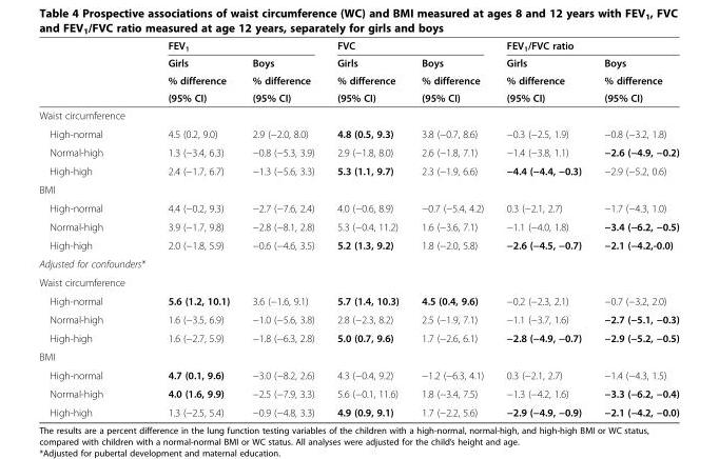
<table><thead><tr><td rowspan="4"></td><td colspan="2">FEV<sub>1</sub></td><td colspan="2">FVC</td><td colspan="2">FEV<sub>1</sub>/FVC ratio</td></tr><tr><td rowspan="3">Girls % difference (95% CI)</td><td rowspan="3">Boys % difference (95% CI)</td><td rowspan="3">Girls % difference (95% CI)</td><td rowspan="3">Boys % difference (95% CI)</td><td rowspan="3">Girls % difference (95% CI)</td><td rowspan="3">Boys % difference (95% CI)</td></tr><tr></tr><tr></tr></thead><tbody><tr><td colspan="7">Waist circumference</td></tr><tr><td>High-normal</td><td>4.5 (0.2, 9.0)</td><td>2.9 (−2.0, 8.0)</td><td>4.8 (0.5, 9.3)</td><td>3.8 (−0.7, 8.6)</td><td>−0.3 (−2.5, 1.9)</td><td>−0.8 (−3.2, 1.8)</td></tr><tr><td>Normal-high</td><td>1.3 (−3.4, 6.3)</td><td>−0.8 (−5.3, 3.9)</td><td>2.9 (−1.8, 8.0)</td><td>2.6 (−1.8, 7.1)</td><td>−1.4 (−3.8, 1.1)</td><td>−2.6 (−4.9, −0.2)</td></tr><tr><td>High-high</td><td>2.4 (−1.7, 6.7)</td><td>−1.3 (−5.6, 3.3)</td><td>5.3 (1.1, 9.7)</td><td>2.3 (−1.9, 6.6)</td><td>−4.4 (−4.4, −0.3)</td><td>−2.9 (−5.2, 0.6)</td></tr><tr><td colspan="7">BMI</td></tr><tr><td>High-normal</td><td>4.4 (−0.2, 9.3)</td><td>−2.7 (−7.6, 2.4)</td><td>4.0 (−0.6, 8.9)</td><td>−0.7 (−5.4, 4.2)</td><td>0.3 (−2.1, 2.7)</td><td>−1.7 (−4.3, 1.0)</td></tr><tr><td>Normal-high</td><td>3.9 (−1.7, 9.8)</td><td>−2.8 (−8.1, 2.8)</td><td>5.3 (−0.4, 11.2)</td><td>1.6 (−3.6, 7.1)</td><td>−1.1 (−4.0, 1.8)</td><td>−3.4 (−6.2, −0.5)</td></tr><tr><td>High-high</td><td>2.0 (−1.8, 5.9)</td><td>−0.6 (−4.6, 3.5)</td><td>5.2 (1.3, 9.2)</td><td>1.8 (−2.0, 5.8)</td><td>−2.6 (−4.5, −0.7)</td><td>−2.1 (−4.2,-0.0)</td></tr><tr><td colspan="7">Adjusted for confounders*</td></tr><tr><td colspan="7">Waist circumference</td></tr><tr><td>High-normal</td><td>5.6 (1.2, 10.1)</td><td>3.6 (−1.6, 9.1)</td><td>5.7 (1.4, 10.3)</td><td>4.5 (0.4, 9.6)</td><td>−0.2 (−2.3, 2.1)</td><td>−0.7 (−3.2, 2.0)</td></tr><tr><td>Normal-high</td><td>1.6 (−3.5, 6.9)</td><td>−1.0 (−5.6, 3.8)</td><td>2.8 (−2.3, 8.2)</td><td>2.5 (−1.9, 7.1)</td><td>−1.1 (−3.7, 1.6)</td><td>−2.7 (−5.1, −0.3)</td></tr><tr><td>High-high</td><td>1.6 (−2.7, 5.9)</td><td>−1.8 (−6.3, 2.8)</td><td>5.0 (0.7, 9.6)</td><td>1.7 (−2.6, 6.1)</td><td>−2.8 (−4.9, −0.7)</td><td>−2.9 (−5.2, −0.5)</td></tr><tr><td colspan="7">BMI</td></tr><tr><td>High-normal</td><td>4.7 (0.1, 9.6)</td><td>−3.0 (−8.2, 2.6)</td><td>4.3 (−0.4, 9.2)</td><td>−1.2 (−6.3, 4.1)</td><td>0.3 (−2.1, 2.7)</td><td>−1.4 (−4.3, 1.5)</td></tr><tr><td>Normal-high</td><td>4.0 (1.6, 9.9)</td><td>−2.5 (−7.9, 3.3)</td><td>5.6 (−0.1, 11.6)</td><td>1.8 (−3.4, 7.5)</td><td>−1.3 (−4.2, 1.6)</td><td>−3.3 (−6.2, −0.4)</td></tr><tr><td>High-high</td><td>1.3 (−2.5, 5.4)</td><td>−0.9 (−4.8, 3.3)</td><td>4.9 (0.9, 9.1)</td><td>1.7 (−2.2, 5.6)</td><td>−2.9 (−4.9, −0.9)</td><td>−2.1 (−4.2, −0.0)</td></tr></tbody></table>